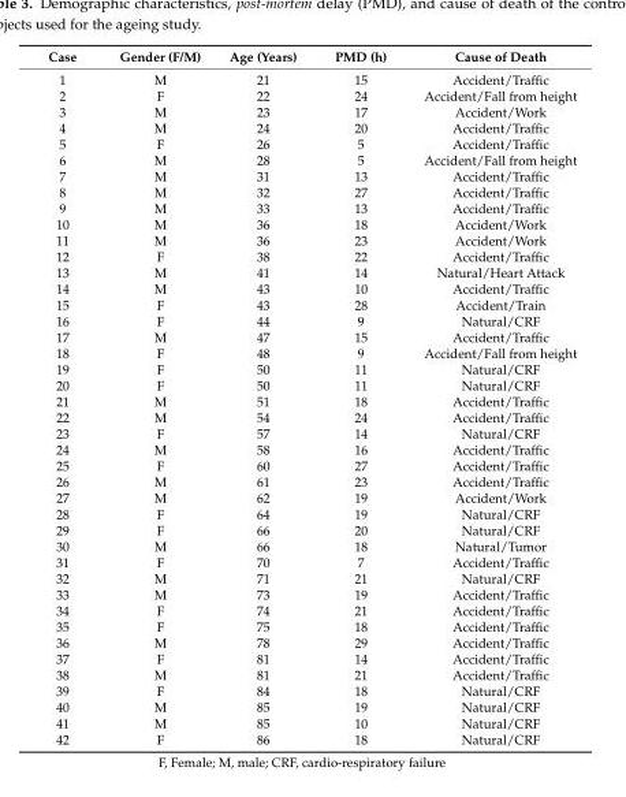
<table><thead><tr><td>Case</td><td>Gender (F/M)</td><td>Age (Years)</td><td>PMD (h)</td><td>Cause of Death</td></tr></thead><tbody><tr><td>1</td><td>M</td><td>21</td><td>15</td><td>Accident/Traffic</td></tr><tr><td>2</td><td>F</td><td>22</td><td>24</td><td>Accident/Fall from height</td></tr><tr><td>3</td><td>M</td><td>23</td><td>17</td><td>Accident/Work</td></tr><tr><td>4</td><td>M</td><td>24</td><td>20</td><td>Accident/Traffic</td></tr><tr><td>5</td><td>F</td><td>26</td><td>5</td><td>Accident/Traffic</td></tr><tr><td>6</td><td>M</td><td>28</td><td>5</td><td>Accident/Fall from height</td></tr><tr><td>7</td><td>M</td><td>31</td><td>13</td><td>Accident/Traffic</td></tr><tr><td>8</td><td>M</td><td>32</td><td>27</td><td>Accident/Traffic</td></tr><tr><td>9</td><td>M</td><td>33</td><td>13</td><td>Accident/Traffic</td></tr><tr><td>10</td><td>M</td><td>36</td><td>18</td><td>Accident/Work</td></tr><tr><td>11</td><td>M</td><td>36</td><td>23</td><td>Accident/Work</td></tr><tr><td>12</td><td>F</td><td>38</td><td>22</td><td>Accident/Traffic</td></tr><tr><td>13</td><td>M</td><td>41</td><td>14</td><td>Natural/Heart Attack</td></tr><tr><td>14</td><td>M</td><td>43</td><td>10</td><td>Accident/Traffic</td></tr><tr><td>15</td><td>F</td><td>43</td><td>28</td><td>Accident/Train</td></tr><tr><td>16</td><td>F</td><td>44</td><td>9</td><td>Natural/CRF</td></tr><tr><td>17</td><td>M</td><td>47</td><td>15</td><td>Accident/Traffic</td></tr><tr><td>18</td><td>F</td><td>48</td><td>9</td><td>Accident/Fall from height</td></tr><tr><td>19</td><td>F</td><td>50</td><td>11</td><td>Natural/CRF</td></tr><tr><td>20</td><td>F</td><td>50</td><td>11</td><td>Natural/CRF</td></tr><tr><td>21</td><td>M</td><td>51</td><td>18</td><td>Accident/Traffic</td></tr><tr><td>22</td><td>M</td><td>54</td><td>24</td><td>Accident/Traffic</td></tr><tr><td>23</td><td>F</td><td>57</td><td>14</td><td>Natural/CRF</td></tr><tr><td>24</td><td>M</td><td>58</td><td>16</td><td>Accident/Traffic</td></tr><tr><td>25</td><td>F</td><td>60</td><td>27</td><td>Accident/Traffic</td></tr><tr><td>26</td><td>M</td><td>61</td><td>23</td><td>Accident/Traffic</td></tr><tr><td>27</td><td>M</td><td>62</td><td>19</td><td>Accident/Work</td></tr><tr><td>28</td><td>F</td><td>64</td><td>19</td><td>Natural/CRF</td></tr><tr><td>29</td><td>F</td><td>66</td><td>20</td><td>Natural/CRF</td></tr><tr><td>30</td><td>M</td><td>66</td><td>18</td><td>Natural/Tumor</td></tr><tr><td>31</td><td>F</td><td>70</td><td>7</td><td>Accident/Traffic</td></tr><tr><td>32</td><td>M</td><td>71</td><td>21</td><td>Natural/CRF</td></tr><tr><td>33</td><td>M</td><td>73</td><td>19</td><td>Accident/Traffic</td></tr><tr><td>34</td><td>F</td><td>74</td><td>21</td><td>Accident/Traffic</td></tr><tr><td>35</td><td>F</td><td>75</td><td>18</td><td>Accident/Traffic</td></tr><tr><td>36</td><td>M</td><td>78</td><td>29</td><td>Accident/Traffic</td></tr><tr><td>37</td><td>F</td><td>81</td><td>14</td><td>Accident/Traffic</td></tr><tr><td>38</td><td>M</td><td>81</td><td>21</td><td>Accident/Traffic</td></tr><tr><td>39</td><td>F</td><td>84</td><td>18</td><td>Natural/CRF</td></tr><tr><td>40</td><td>M</td><td>85</td><td>19</td><td>Natural/CRF</td></tr><tr><td>41</td><td>M</td><td>85</td><td>10</td><td>Natural/CRF</td></tr><tr><td>42</td><td>F</td><td>86</td><td>18</td><td>Natural/CRF</td></tr></tbody></table>